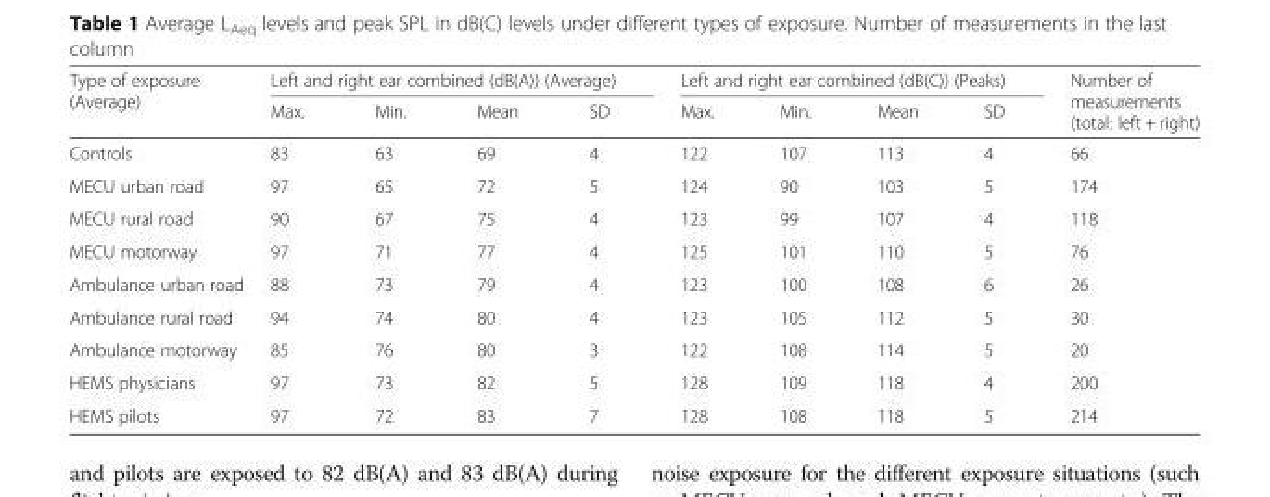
<table><thead><tr><td rowspan="2">Type of exposure (Average)</td><td colspan="4">Left and right ear combined (dB(A)) (Average)</td><td colspan="4">Left and right ear combined (dB(C)) (Peaks)</td><td rowspan="2">Number of measurements (total: left + right)</td></tr><tr><td>Max.</td><td>Min.</td><td>Mean</td><td>SD</td><td>Max.</td><td>Min.</td><td>Mean</td><td>SD</td></tr></thead><tbody><tr><td>Controls</td><td>83</td><td>63</td><td>69</td><td>4</td><td>122</td><td>107</td><td>113</td><td>4</td><td>66</td></tr><tr><td>MECU urban road</td><td>97</td><td>65</td><td>72</td><td>5</td><td>124</td><td>90</td><td>103</td><td>5</td><td>174</td></tr><tr><td>MECU rural road</td><td>90</td><td>67</td><td>75</td><td>4</td><td>123</td><td>99</td><td>107</td><td>4</td><td>118</td></tr><tr><td>MECU motorway</td><td>97</td><td>71</td><td>77</td><td>4</td><td>125</td><td>101</td><td>110</td><td>5</td><td>76</td></tr><tr><td>Ambulance urban road</td><td>88</td><td>73</td><td>79</td><td>4</td><td>123</td><td>100</td><td>108</td><td>6</td><td>26</td></tr><tr><td>Ambulance rural road</td><td>94</td><td>74</td><td>80</td><td>4</td><td>123</td><td>105</td><td>112</td><td>5</td><td>30</td></tr><tr><td>Ambulance motorway</td><td>85</td><td>76</td><td>80</td><td>3</td><td>122</td><td>108</td><td>114</td><td>5</td><td>20</td></tr><tr><td>HEMS physicians</td><td>97</td><td>73</td><td>82</td><td>5</td><td>128</td><td>109</td><td>118</td><td>4</td><td>200</td></tr><tr><td>HEMS pilots</td><td>97</td><td>72</td><td>83</td><td>7</td><td>128</td><td>108</td><td>118</td><td>5</td><td>214</td></tr></tbody></table>